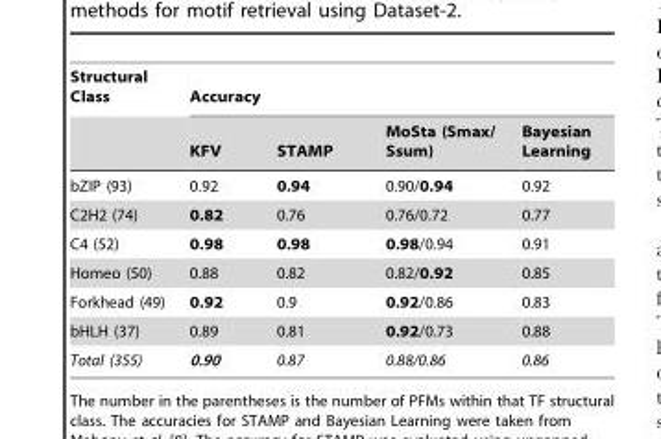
<table><thead><tr><td rowspan="2">Structural Class</td><td colspan="4">Accuracy</td></tr><tr><td>KFV</td><td>STAMP</td><td>MoSta (Smax/ Ssum)</td><td>Bayesian Learning</td></tr></thead><tbody><tr><td>bZIP (93)</td><td>0.92</td><td>0.94</td><td>0.90/0.94</td><td>0.92</td></tr><tr><td>C2H2 (74)</td><td>0.82</td><td>0.76</td><td>0.76/0.72</td><td>0.77</td></tr><tr><td>C4 (52)</td><td>0.98</td><td>0.98</td><td>0.98/0.94</td><td>0.91</td></tr><tr><td>Homeo (50)</td><td>0.88</td><td>0.82</td><td>0.82/0.92</td><td>0.85</td></tr><tr><td>Forkhead (49)</td><td>0.92</td><td>0.9</td><td>0.92/0.86</td><td>0.83</td></tr><tr><td>bHLH (37)</td><td>0.89</td><td>0.81</td><td>0.92/0.73</td><td>0.88</td></tr><tr><td>Total (355)</td><td>0.90</td><td>0.87</td><td>0.88/0.86</td><td>0.86</td></tr></tbody></table>